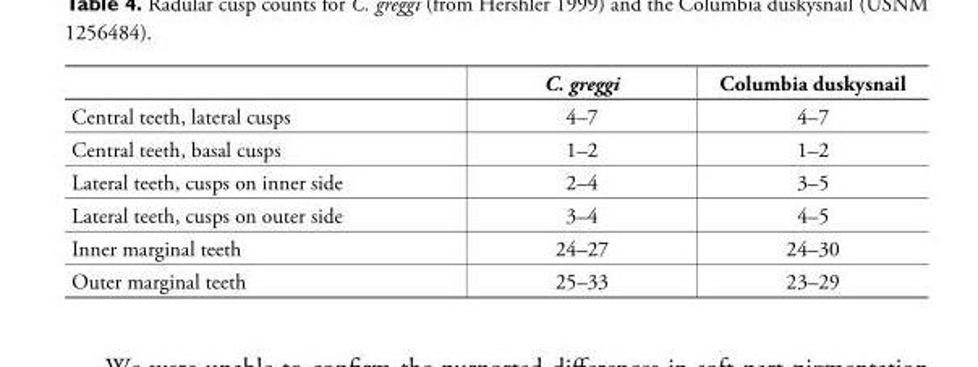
<table><thead><tr><td></td><td>C. greggi</td><td>Columbia duskysnail</td></tr></thead><tbody><tr><td>Central teeth, lateral cusps</td><td>4–7</td><td>4–7</td></tr><tr><td>Central teeth, basal cusps</td><td>1–2</td><td>1–2</td></tr><tr><td>Lateral teeth, cusps on inner side</td><td>2–4</td><td>3–5</td></tr><tr><td>Lateral teeth, cusps on outer side</td><td>3–4</td><td>4–5</td></tr><tr><td>Inner marginal teeth</td><td>24–27</td><td>24–30</td></tr><tr><td>Outer marginal teeth</td><td>25–33</td><td>23–29</td></tr></tbody></table>